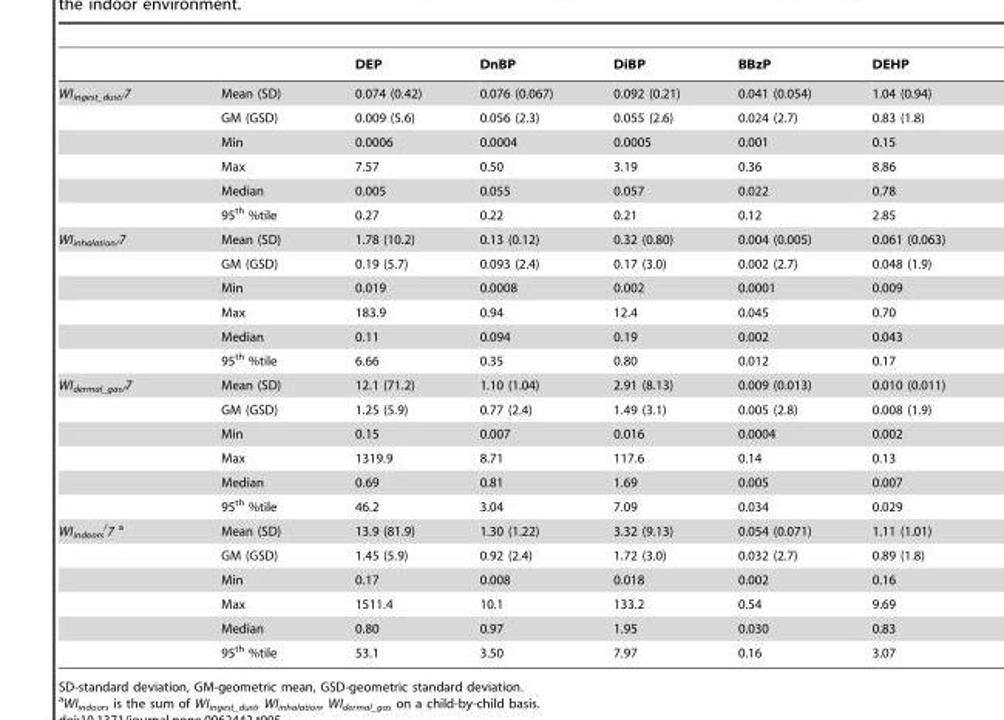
<table><thead><tr><td></td><td></td><td>DEP</td><td>DnBP</td><td>DiBP</td><td>BBzP</td><td>DEHP</td></tr></thead><tbody><tr><td rowspan="6">WI<sub>ingest_dust/</sub>7</td><td>Mean (SD)</td><td>0.074 (0.42)</td><td>0.076 (0.067)</td><td>0.092 (0.21)</td><td>0.041 (0.054)</td><td>1.04 (0.94)</td></tr><tr><td>GM (GSD)</td><td>0.009 (5.6)</td><td>0.056 (2.3)</td><td>0.055 (2.6)</td><td>0.024 (2.7)</td><td>0.83 (1.8)</td></tr><tr><td>Min</td><td>0.0006</td><td>0.0004</td><td>0.0005</td><td>0.001</td><td>0.15</td></tr><tr><td>Max</td><td>7.57</td><td>0.50</td><td>3.19</td><td>0.36</td><td>8.86</td></tr><tr><td>Median</td><td>0.005</td><td>0.055</td><td>0.057</td><td>0.022</td><td>0.78</td></tr><tr><td>95<sup>th</sup> %tile</td><td>0.27</td><td>0.22</td><td>0.21</td><td>0.12</td><td>2.85</td></tr><tr><td rowspan="6">WI<sub>inhalation/</sub>7</td><td>Mean (SD)</td><td>1.78 (10.2)</td><td>0.13 (0.12)</td><td>0.32 (0.80)</td><td>0.004 (0.005)</td><td>0.061 (0.063)</td></tr><tr><td>GM (GSD)</td><td>0.19 (5.7)</td><td>0.093 (2.4)</td><td>0.17 (3.0)</td><td>0.002 (2.7)</td><td>0.048 (1.9)</td></tr><tr><td>Min</td><td>0.019</td><td>0.0008</td><td>0.002</td><td>0.0001</td><td>0.009</td></tr><tr><td>Max</td><td>183.9</td><td>0.94</td><td>12.4</td><td>0.045</td><td>0.70</td></tr><tr><td>Median</td><td>0.11</td><td>0.094</td><td>0.19</td><td>0.002</td><td>0.043</td></tr><tr><td>95<sup>th</sup> %tile</td><td>6.66</td><td>0.35</td><td>0.80</td><td>0.012</td><td>0.17</td></tr><tr><td rowspan="6">WI<sub>dermal_gas/</sub>7</td><td>Mean (SD)</td><td>12.1 (71.2)</td><td>1.10 (1.04)</td><td>2.91 (8.13)</td><td>0.009 (0.013)</td><td>0.010 (0.011)</td></tr><tr><td>GM (GSD)</td><td>1.25 (5.9)</td><td>0.77 (2.4)</td><td>1.49 (3.1)</td><td>0.005 (2.8)</td><td>0.008 (1.9)</td></tr><tr><td>Min</td><td>0.15</td><td>0.007</td><td>0.016</td><td>0.0004</td><td>0.002</td></tr><tr><td>Max</td><td>1319.9</td><td>8.71</td><td>117.6</td><td>0.14</td><td>0.13</td></tr><tr><td>Median</td><td>0.69</td><td>0.81</td><td>1.69</td><td>0.005</td><td>0.007</td></tr><tr><td>95<sup>th</sup> %tile</td><td>46.2</td><td>3.04</td><td>7.09</td><td>0.034</td><td>0.029</td></tr><tr><td rowspan="6">WI<sub>indoors</sub> <sup>/</sup>7 a</td><td>Mean (SD)</td><td>13.9 (81.9)</td><td>1.30 (1.22)</td><td>3.32 (9.13)</td><td>0.054 (0.071)</td><td>1.11 (1.01)</td></tr><tr><td>GM (GSD)</td><td>1.45 (5.9)</td><td>0.92 (2.4)</td><td>1.72 (3.0)</td><td>0.032 (2.7)</td><td>0.89 (1.8)</td></tr><tr><td>Min</td><td>0.17</td><td>0.008</td><td>0.018</td><td>0.002</td><td>0.16</td></tr><tr><td>Max</td><td>1511.4</td><td>10.1</td><td>133.2</td><td>0.54</td><td>9.69</td></tr><tr><td>Median</td><td>0.80</td><td>0.97</td><td>1.95</td><td>0.030</td><td>0.83</td></tr><tr><td>95<sup>th</sup> %tile</td><td>53.1</td><td>3.50</td><td>7.97</td><td>0.16</td><td>3.07</td></tr></tbody></table>